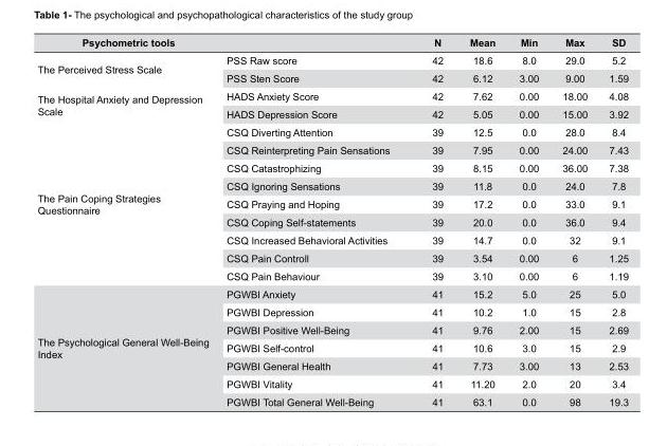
<table><thead><tr><td>Psychometric tools</td><td></td><td>N</td><td>Mean</td><td>Min</td><td>Max</td><td>SD</td></tr></thead><tbody><tr><td rowspan="2">The Perceived Stress Scale</td><td>PSS Raw score</td><td>42</td><td>18.6</td><td>8.0</td><td>29.0</td><td>5.2</td></tr><tr><td>PSS Sten Score</td><td>42</td><td>6.12</td><td>3.00</td><td>9.00</td><td>1.59</td></tr><tr><td rowspan="2">The Hospital Anxiety and Depression Scale</td><td>HADS Anxiety Score</td><td>42</td><td>7.62</td><td>0.00</td><td>18.00</td><td>4.08</td></tr><tr><td>HADS Depression Score</td><td>42</td><td>5.05</td><td>0.00</td><td>15.00</td><td>3.92</td></tr><tr><td rowspan="9">The Pain Coping Strategies Questionnaire</td><td>CSQ Diverting Attention</td><td>39</td><td>12.5</td><td>0.0</td><td>28.0</td><td>8.4</td></tr><tr><td>CSQ Reinterpreting Pain Sensations</td><td>39</td><td>7.95</td><td>0.00</td><td>24.00</td><td>7.43</td></tr><tr><td>CSQ Catastrophizing</td><td>39</td><td>8.15</td><td>0.00</td><td>36.00</td><td>7.38</td></tr><tr><td>CSQ Ignoring Sensations</td><td>39</td><td>11.8</td><td>0.0</td><td>24.0</td><td>7.8</td></tr><tr><td>CSQ Praying and Hoping</td><td>39</td><td>17.2</td><td>0.0</td><td>33.0</td><td>9.1</td></tr><tr><td>CSQ Coping Self-statements</td><td>39</td><td>20.0</td><td>0.0</td><td>36.0</td><td>9.4</td></tr><tr><td>CSQ Increased Behavioral Activities</td><td>39</td><td>14.7</td><td>0.0</td><td>32</td><td>9.1</td></tr><tr><td>CSQ Pain Controll</td><td>39</td><td>3.54</td><td>0.00</td><td>6</td><td>1.25</td></tr><tr><td>CSQ Pain Behaviour</td><td>39</td><td>3.10</td><td>0.00</td><td>6</td><td>1.19</td></tr><tr><td rowspan="7">The Psychological General Well-Being Index</td><td>PGWBI Anxiety</td><td>41</td><td>15.2</td><td>5.0</td><td>25</td><td>5.0</td></tr><tr><td>PGWBI Depression</td><td>41</td><td>10.2</td><td>1.0</td><td>15</td><td>2.8</td></tr><tr><td>PGWBI Positive Well-Being</td><td>41</td><td>9.76</td><td>2.00</td><td>15</td><td>2.69</td></tr><tr><td>PGWBI Self-control</td><td>41</td><td>10.6</td><td>3.0</td><td>15</td><td>2.9</td></tr><tr><td>PGWBI General Health</td><td>41</td><td>7.73</td><td>3.00</td><td>13</td><td>2.53</td></tr><tr><td>PGWBI Vitality</td><td>41</td><td>11.20</td><td>2.0</td><td>20</td><td>3.4</td></tr><tr><td>PGWBI Total General Well-Being</td><td>41</td><td>63.1</td><td>0.0</td><td>98</td><td>19.3</td></tr></tbody></table>